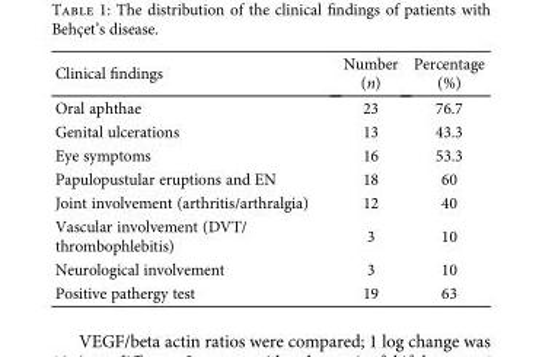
<table><thead><tr><td>Clinical findings</td><td>Number (n)</td><td>Percentage (%)</td></tr></thead><tbody><tr><td>Oral aphthae</td><td>23</td><td>76.7</td></tr><tr><td>Genital ulcerations</td><td>13</td><td>43.3</td></tr><tr><td>Eye symptoms</td><td>16</td><td>53.3</td></tr><tr><td>Papulopustular eruptions and EN</td><td>18</td><td>60</td></tr><tr><td>Joint involvement (arthritis/arthralgia)</td><td>12</td><td>40</td></tr><tr><td>Vascular involvement (DVT/ thrombophlebitis)</td><td>3</td><td>10</td></tr><tr><td>Neurological involvement</td><td>3</td><td>10</td></tr><tr><td>Positive pathergy test</td><td>19</td><td>63</td></tr></tbody></table>